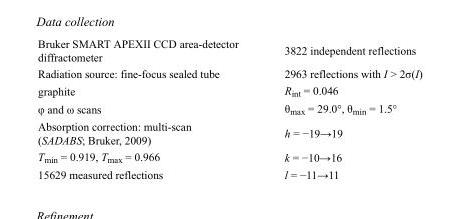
<table><tbody><tr><td>Bruker SMART APEXII CCD area-detector diffractometer</td><td>3822 independent reflections</td></tr><tr><td>Radiation source: fine-focus sealed tube</td><td>2963 reflections with I &gt; 2σ(I)</td></tr><tr><td>graphite</td><td>R<sub>int</sub> = 0.046</td></tr><tr><td>φ and ω scans</td><td>θ<sub>max</sub> = 29.0°, θ<sub>min</sub> = 1.5°</td></tr><tr><td>Absorption correction: multi-scan (SADABS; Bruker, 2009)</td><td>h = −19→19</td></tr><tr><td>T<sub>min</sub> = 0.919, T<sub>max</sub> = 0.966</td><td>k = −10→16</td></tr><tr><td>15629 measured reflections</td><td>l = −11→11</td></tr></tbody></table>